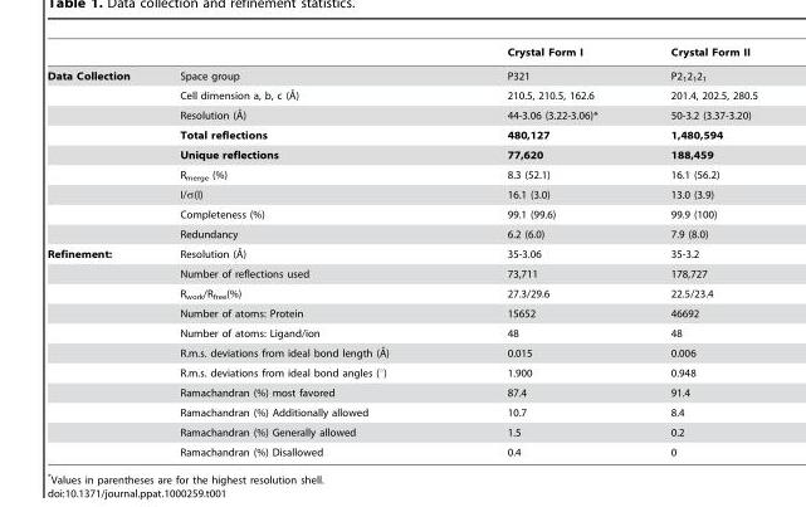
<table><thead><tr><td></td><td></td><td>Crystal Form I</td><td>Crystal Form II</td></tr></thead><tbody><tr><td rowspan="9">Data Collection</td><td>Space group</td><td>P321</td><td>P2<sub>1</sub>2<sub>1</sub>2<sub>1</sub></td></tr><tr><td>Cell dimension a, b, c (A˚)</td><td>210.5, 210.5, 162.6</td><td>201.4, 202.5, 280.5</td></tr><tr><td>Resolution (A˚)</td><td>44-3.06 (3.22-3.06)*</td><td>50-3.2 (3.37-3.20)</td></tr><tr><td>Total reflections</td><td>480,127</td><td>1,480,594</td></tr><tr><td>Unique reflections</td><td>77,620</td><td>188,459</td></tr><tr><td>R<sub>merge</sub> (%)</td><td>8.3 (52.1)</td><td>16.1 (56.2)</td></tr><tr><td>I/σ(I)</td><td>16.1 (3.0)</td><td>13.0 (3.9)</td></tr><tr><td>Completeness (%)</td><td>99.1 (99.6)</td><td>99.9 (100)</td></tr><tr><td>Redundancy</td><td>6.2 (6.0)</td><td>7.9 (8.0)</td></tr><tr><td rowspan="11">Refinement:</td><td>Resolution (A˚)</td><td>35-3.06</td><td>35-3.2</td></tr><tr><td>Number of reflections used</td><td>73,711</td><td>178,727</td></tr><tr><td>R<sub>work</sub>/R<sub>free</sub>(%)</td><td>27.3/29.6</td><td>22.5/23.4</td></tr><tr><td>Number of atoms: Protein</td><td>15652</td><td>46692</td></tr><tr><td>Number of atoms: Ligand/ion</td><td>48</td><td>48</td></tr><tr><td>R.m.s. deviations from ideal bond length (A˚)</td><td>0.015</td><td>0.006</td></tr><tr><td>R.m.s. deviations from ideal bond angles (°)</td><td>1.900</td><td>0.948</td></tr><tr><td>Ramachandran (%) most favored</td><td>87.4</td><td>91.4</td></tr><tr><td>Ramachandran (%) Additionally allowed</td><td>10.7</td><td>8.4</td></tr><tr><td>Ramachandran (%) Generally allowed</td><td>1.5</td><td>0.2</td></tr><tr><td>Ramachandran (%) Disallowed</td><td>0.4</td><td>0</td></tr></tbody></table>